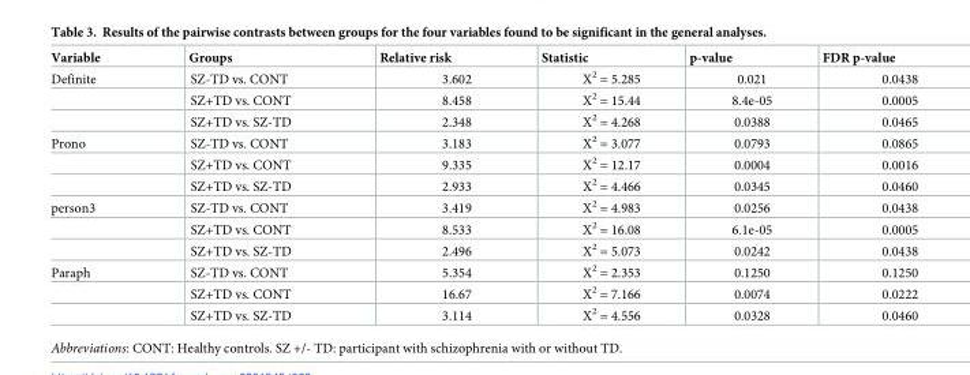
<table><thead><tr><td>Variable</td><td>Groups</td><td>Relative risk</td><td>Statistic</td><td>p-value</td><td>FDR p-value</td></tr></thead><tbody><tr><td rowspan="3">Definite</td><td>SZ-TD vs. CONT</td><td>3.602</td><td>X<sup>2</sup> = 5.285</td><td>0.021</td><td>0.0438</td></tr><tr><td>SZ+TD vs. CONT</td><td>8.458</td><td>X<sup>2</sup> = 15.44</td><td>8.4e-05</td><td>0.0005</td></tr><tr><td>SZ+TD vs. SZ-TD</td><td>2.348</td><td>X<sup>2</sup> = 4.268</td><td>0.0388</td><td>0.0465</td></tr><tr><td rowspan="3">Prono</td><td>SZ-TD vs. CONT</td><td>3.183</td><td>X<sup>2</sup> = 3.077</td><td>0.0793</td><td>0.0865</td></tr><tr><td>SZ+TD vs. CONT</td><td>9.335</td><td>X<sup>2</sup> = 12.17</td><td>0.0004</td><td>0.0016</td></tr><tr><td>SZ+TD vs. SZ-TD</td><td>2.933</td><td>X<sup>2</sup> = 4.466</td><td>0.0345</td><td>0.0460</td></tr><tr><td rowspan="3">person3</td><td>SZ-TD vs. CONT</td><td>3.419</td><td>X<sup>2</sup> = 4.983</td><td>0.0256</td><td>0.0438</td></tr><tr><td>SZ+TD vs. CONT</td><td>8.533</td><td>X<sup>2</sup> = 16.08</td><td>6.1e-05</td><td>0.0005</td></tr><tr><td>SZ+TD vs. SZ-TD</td><td>2.496</td><td>X<sup>2</sup> = 5.073</td><td>0.0242</td><td>0.0438</td></tr><tr><td rowspan="3">Paraph</td><td>SZ-TD vs. CONT</td><td>5.354</td><td>X<sup>2</sup> = 2.353</td><td>0.1250</td><td>0.1250</td></tr><tr><td>SZ+TD vs. CONT</td><td>16.67</td><td>X<sup>2</sup> = 7.166</td><td>0.0074</td><td>0.0222</td></tr><tr><td>SZ+TD vs. SZ-TD</td><td>3.114</td><td>X<sup>2</sup> = 4.556</td><td>0.0328</td><td>0.0460</td></tr></tbody></table>